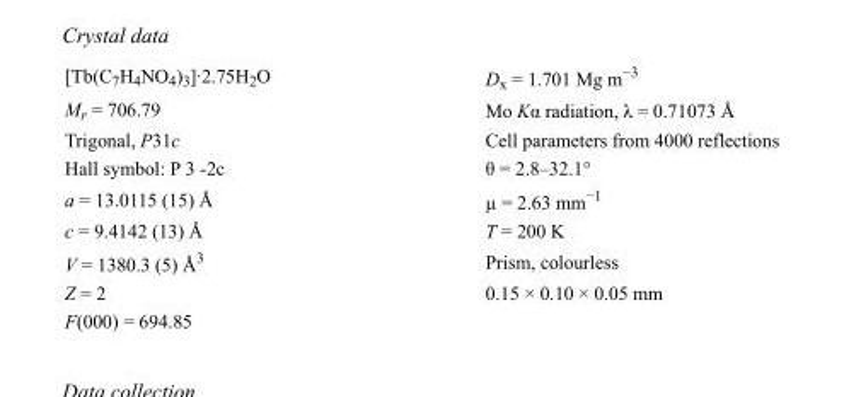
<table><tbody><tr><td>[Tb(C<sub>7</sub>H<sub>4</sub>NO<sub>4</sub>)<sub>3</sub>]·2.75H<sub>2</sub>O</td><td>D<sub>x</sub> = 1.701 Mg m<sup>−3</sup></td></tr><tr><td>M<sub>r</sub> = 706.79</td><td>Mo Kα radiation, λ = 0.71073 Å</td></tr><tr><td>Trigonal, P31c</td><td>Cell parameters from 4000 reflections</td></tr><tr><td>Hall symbol: P 3 -2c</td><td>θ = 2.8–32.1°</td></tr><tr><td>a = 13.0115 (15) Å</td><td>µ = 2.63 mm<sup>−1</sup></td></tr><tr><td>c = 9.4142 (13) Å</td><td>T = 200 K</td></tr><tr><td>V = 1380.3 (5) Å<sup>3</sup></td><td>Prism, colourless</td></tr><tr><td>Z = 2</td><td>0.15 × 0.10 × 0.05 mm</td></tr><tr><td>F(000) = 694.85</td><td></td></tr></tbody></table>